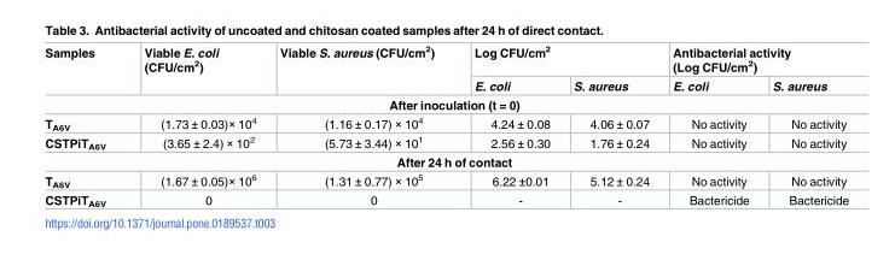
<table><thead><tr><td rowspan="2">Samples</td><td rowspan="2">Viable E. coli (CFU/cm<sup>2</sup>)</td><td rowspan="2">Viable S. aureus (CFU/cm<sup>2</sup>)</td><td colspan="2">Log CFU/cm<sup>2</sup></td><td colspan="2">Antibacterial activity (Log CFU/cm<sup>2</sup>)</td></tr><tr><td>E. coli</td><td>S. aureus</td><td>E. coli</td><td>S. aureus</td></tr></thead><tbody><tr><td colspan="7">After inoculation (t = 0)</td></tr><tr><td>T<sub>A6V</sub></td><td>(1.73 ± 0.03)× 10<sup>4</sup></td><td>(1.16 ± 0.17) × 10<sup>4</sup></td><td>4.24 ± 0.08</td><td>4.06 ± 0.07</td><td>No activity</td><td>No activity</td></tr><tr><td>CSTPiT<sub>A6V</sub></td><td>(3.65 ± 2.4) × 10<sup>2</sup></td><td>(5.73 ± 3.44) × 10<sup>1</sup></td><td>2.56 ± 0.30</td><td>1.76 ± 0.24</td><td>No activity</td><td>No activity</td></tr><tr><td colspan="7">After 24 h of contact</td></tr><tr><td>T<sub>A6V</sub></td><td>(1.67 ± 0.05)× 10<sup>6</sup></td><td>(1.31 ± 0.77) × 10<sup>5</sup></td><td>6.22 ±0.01</td><td>5.12 ± 0.24</td><td>No activity</td><td>No activity</td></tr><tr><td>CSTPiT<sub>A6V</sub></td><td>0</td><td>0</td><td>-</td><td>-</td><td>Bactericide</td><td>Bactericide</td></tr></tbody></table>